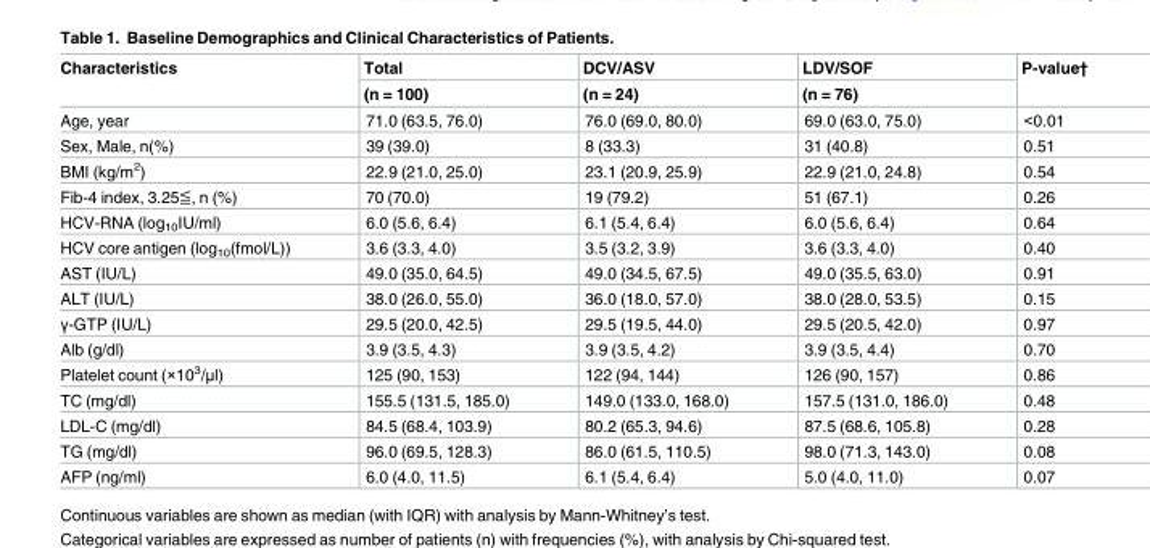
<table><thead><tr><td rowspan="2">Characteristics</td><td rowspan="2">Total (n = 100)</td><td rowspan="2">DCV/ASV (n = 24)</td><td rowspan="2">LDV/SOF (n = 76)</td><td rowspan="2">P-value†</td></tr><tr></tr></thead><tbody><tr><td>Age, year</td><td>71.0 (63.5, 76.0)</td><td>76.0 (69.0, 80.0)</td><td>69.0 (63.0, 75.0)</td><td>&lt;0.01</td></tr><tr><td>Sex, Male, n(%)</td><td>39 (39.0)</td><td>8 (33.3)</td><td>31 (40.8)</td><td>0.51</td></tr><tr><td>BMI (kg/m<sup>2</sup>)</td><td>22.9 (21.0, 25.0)</td><td>23.1 (20.9, 25.9)</td><td>22.9 (21.0, 24.8)</td><td>0.54</td></tr><tr><td>Fib-4 index, 3.25≦, n (%)</td><td>70 (70.0)</td><td>19 (79.2)</td><td>51 (67.1)</td><td>0.26</td></tr><tr><td>HCV-RNA (log<sub>10</sub>IU/ml)</td><td>6.0 (5.6, 6.4)</td><td>6.1 (5.4, 6.4)</td><td>6.0 (5.6, 6.4)</td><td>0.64</td></tr><tr><td>HCV core antigen (log<sub>10</sub>(fmol/L))</td><td>3.6 (3.3, 4.0)</td><td>3.5 (3.2, 3.9)</td><td>3.6 (3.3, 4.0)</td><td>0.40</td></tr><tr><td>AST (IU/L)</td><td>49.0 (35.0, 64.5)</td><td>49.0 (34.5, 67.5)</td><td>49.0 (35.5, 63.0)</td><td>0.91</td></tr><tr><td>ALT (IU/L)</td><td>38.0 (26.0, 55.0)</td><td>36.0 (18.0, 57.0)</td><td>38.0 (28.0, 53.5)</td><td>0.15</td></tr><tr><td>γ-GTP (IU/L)</td><td>29.5 (20.0, 42.5)</td><td>29.5 (19.5, 44.0)</td><td>29.5 (20.5, 42.0)</td><td>0.97</td></tr><tr><td>Alb (g/dl)</td><td>3.9 (3.5, 4.3)</td><td>3.9 (3.5, 4.2)</td><td>3.9 (3.5, 4.4)</td><td>0.70</td></tr><tr><td>Platelet count (×10<sup>3</sup>/μl)</td><td>125 (90, 153)</td><td>122 (94, 144)</td><td>126 (90, 157)</td><td>0.86</td></tr><tr><td>TC (mg/dl)</td><td>155.5 (131.5, 185.0)</td><td>149.0 (133.0, 168.0)</td><td>157.5 (131.0, 186.0)</td><td>0.48</td></tr><tr><td>LDL-C (mg/dl)</td><td>84.5 (68.4, 103.9)</td><td>80.2 (65.3, 94.6)</td><td>87.5 (68.6, 105.8)</td><td>0.28</td></tr><tr><td>TG (mg/dl)</td><td>96.0 (69.5, 128.3)</td><td>86.0 (61.5, 110.5)</td><td>98.0 (71.3, 143.0)</td><td>0.08</td></tr><tr><td>AFP (ng/ml)</td><td>6.0 (4.0, 11.5)</td><td>6.1 (5.4, 6.4)</td><td>5.0 (4.0, 11.0)</td><td>0.07</td></tr></tbody></table>